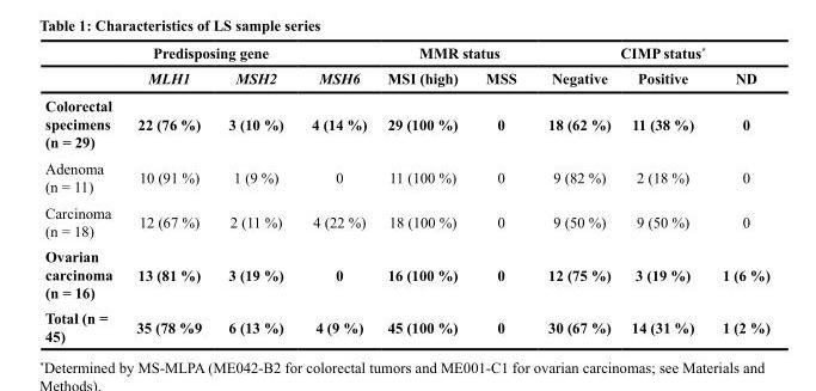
<table><thead><tr><td rowspan="2"></td><td colspan="2">Predisposing gene</td><td rowspan="2">MSH6</td><td colspan="2">MMR status</td><td colspan="3">CIMP status*</td></tr><tr><td>MLH1</td><td>MSH2</td><td>MSI (high)</td><td>MSS</td><td>Negative</td><td>Positive</td><td>ND</td></tr></thead><tbody><tr><td>Colorectal specimens (n = 29)</td><td>22 (76 %)</td><td>3 (10 %)</td><td>4 (14 %)</td><td>29 (100 %)</td><td>0</td><td>18 (62 %)</td><td>11 (38 %)</td><td>0</td></tr><tr><td>Adenoma (n = 11)</td><td>10 (91 %)</td><td>1 (9 %)</td><td>0</td><td>11 (100 %)</td><td>0</td><td>9 (82 %)</td><td>2 (18 %)</td><td>0</td></tr><tr><td>Carcinoma (n = 18)</td><td>12 (67 %)</td><td>2 (11 %)</td><td>4 (22 %)</td><td>18 (100 %)</td><td>0</td><td>9 (50 %)</td><td>9 (50 %)</td><td>0</td></tr><tr><td>Ovarian carcinoma (n = 16)</td><td>13 (81 %)</td><td>3 (19 %)</td><td>0</td><td>16 (100 %)</td><td>0</td><td>12 (75 %)</td><td>3 (19 %)</td><td>1 (6 %)</td></tr><tr><td>Total (n = 45)</td><td>35 (78 %9</td><td>6 (13 %)</td><td>4 (9 %)</td><td>45 (100 %)</td><td>0</td><td>30 (67 %)</td><td>14 (31 %)</td><td>1 (2 %)</td></tr></tbody></table>